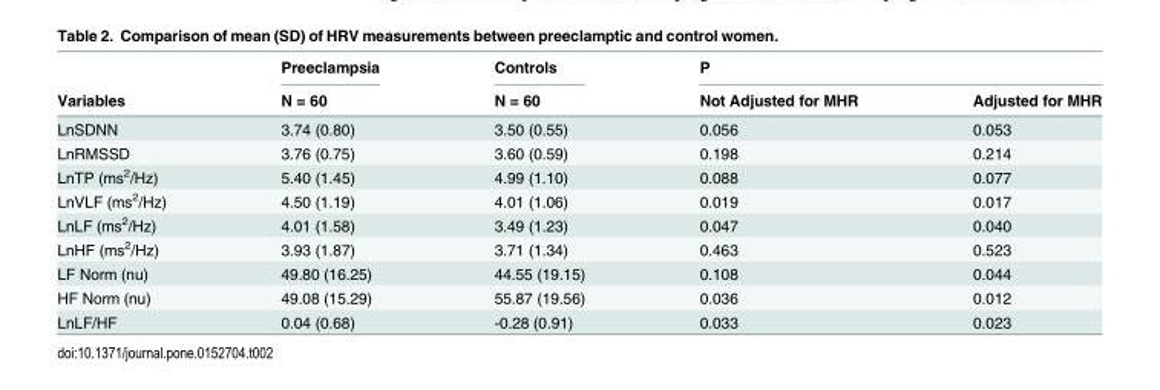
<table><thead><tr><td rowspan="2">Variables</td><td rowspan="2">Preeclampsia N = 60</td><td rowspan="2">Controls N = 60</td><td colspan="2">P</td></tr><tr><td>Not Adjusted for MHR</td><td>Adjusted for MHR</td></tr></thead><tbody><tr><td>LnSDNN</td><td>3.74 (0.80)</td><td>3.50 (0.55)</td><td>0.056</td><td>0.053</td></tr><tr><td>LnRMSSD</td><td>3.76 (0.75)</td><td>3.60 (0.59)</td><td>0.198</td><td>0.214</td></tr><tr><td>LnTP (ms<sup>2</sup>/Hz)</td><td>5.40 (1.45)</td><td>4.99 (1.10)</td><td>0.088</td><td>0.077</td></tr><tr><td>LnVLF (ms<sup>2</sup>/Hz)</td><td>4.50 (1.19)</td><td>4.01 (1.06)</td><td>0.019</td><td>0.017</td></tr><tr><td>LnLF (ms<sup>2</sup>/Hz)</td><td>4.01 (1.58)</td><td>3.49 (1.23)</td><td>0.047</td><td>0.040</td></tr><tr><td>LnHF (ms<sup>2</sup>/Hz)</td><td>3.93 (1.87)</td><td>3.71 (1.34)</td><td>0.463</td><td>0.523</td></tr><tr><td>LF Norm (nu)</td><td>49.80 (16.25)</td><td>44.55 (19.15)</td><td>0.108</td><td>0.044</td></tr><tr><td>HF Norm (nu)</td><td>49.08 (15.29)</td><td>55.87 (19.56)</td><td>0.036</td><td>0.012</td></tr><tr><td>LnLF/HF</td><td>0.04 (0.68)</td><td>-0.28 (0.91)</td><td>0.033</td><td>0.023</td></tr></tbody></table>